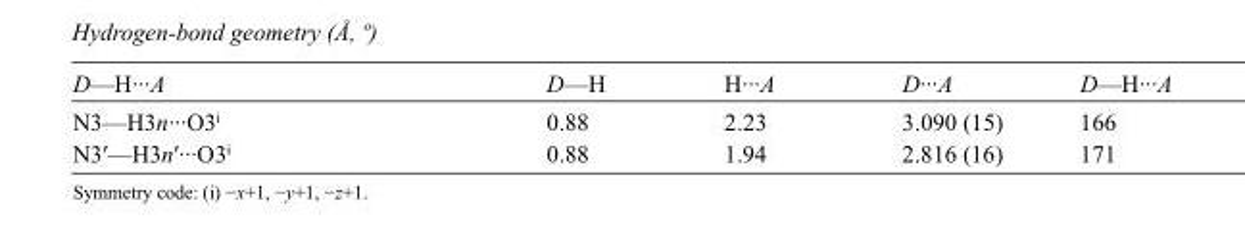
<table><tbody><tr><td>D—H···A</td><td>D—H</td><td>H···A</td><td>D···A</td><td>D—H···A</td></tr><tr><td>N3—H3n···O3<sup>i</sup></td><td>0.88</td><td>2.23</td><td>3.090 (15)</td><td>166</td></tr><tr><td>N3′—H3n′···O3<sup>i</sup></td><td>0.88</td><td>1.94</td><td>2.816 (16)</td><td>171</td></tr></tbody></table>